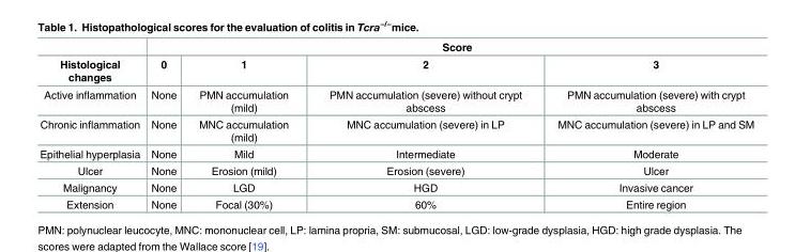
<table><thead><tr><td rowspan="2">Histological changes</td><td colspan="4">Score</td></tr><tr><td>0</td><td>1</td><td>2</td><td>3</td></tr></thead><tbody><tr><td>Active inflammation</td><td>None</td><td>PMN accumulation (mild)</td><td>PMN accumulation (severe) without crypt abscess</td><td>PMN accumulation (severe) with crypt abscess</td></tr><tr><td>Chronic inflammation</td><td>None</td><td>MNC accumulation (mild)</td><td>MNC accumulation (severe) in LP</td><td>MNC accumulation (severe) in LP and SM</td></tr><tr><td>Epithelial hyperplasia</td><td>None</td><td>Mild</td><td>Intermediate</td><td>Moderate</td></tr><tr><td>Ulcer</td><td>None</td><td>Erosion (mild)</td><td>Erosion (severe)</td><td>Ulcer</td></tr><tr><td>Malignancy</td><td>None</td><td>LGD</td><td>HGD</td><td>Invasive cancer</td></tr><tr><td>Extension</td><td>None</td><td>Focal (30%)</td><td>60%</td><td>Entire region</td></tr></tbody></table>